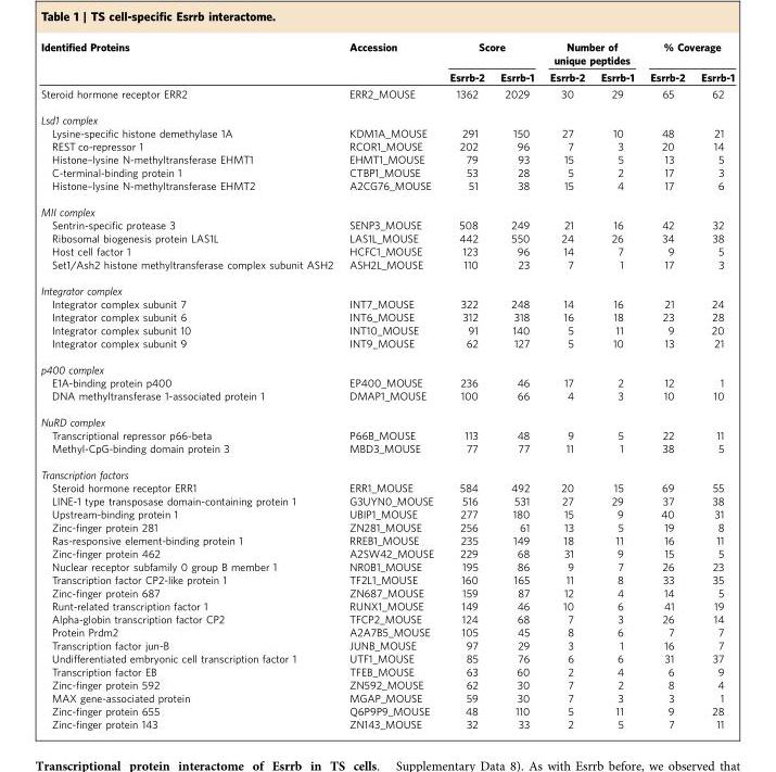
<table><thead><tr><td rowspan="2">Identified Proteins</td><td rowspan="2">Accession</td><td colspan="2">Score</td><td colspan="2">Number of unique peptides</td><td colspan="2">% Coverage</td></tr><tr><td>Esrrb-2</td><td>Esrrb-1</td><td>Esrrb-2</td><td>Esrrb-1</td><td>Esrrb-2</td><td>Esrrb-1</td></tr></thead><tbody><tr><td>Steroid hormone receptor ERR2</td><td>ERR2_MOUSE</td><td>1362</td><td>2029</td><td>30</td><td>29</td><td>65</td><td>62</td></tr><tr><td colspan="8">Lsd1 complex</td></tr><tr><td>Lysine-specific histone demethylase 1A</td><td>KDM1A_MOUSE</td><td>291</td><td>150</td><td>27</td><td>10</td><td>48</td><td>21</td></tr><tr><td>REST co-repressor 1</td><td>RCOR1_MOUSE</td><td>202</td><td>96</td><td>7</td><td>3</td><td>20</td><td>14</td></tr><tr><td>Histone–lysine N-methyltransferase EHMT1</td><td>EHMT1_MOUSE</td><td>79</td><td>93</td><td>15</td><td>5</td><td>13</td><td>5</td></tr><tr><td>C-terminal-binding protein 1</td><td>CTBP1_MOUSE</td><td>53</td><td>28</td><td>5</td><td>2</td><td>17</td><td>3</td></tr><tr><td>Histone–lysine N-methyltransferase EHMT2</td><td>A2CG76_MOUSE</td><td>51</td><td>38</td><td>15</td><td>4</td><td>17</td><td>6</td></tr><tr><td colspan="8">MII complex</td></tr><tr><td>Sentrin-specific protease 3</td><td>SENP3_MOUSE</td><td>508</td><td>249</td><td>21</td><td>16</td><td>42</td><td>32</td></tr><tr><td>Ribosomal biogenesis protein LAS1L</td><td>LAS1L_MOUSE</td><td>442</td><td>550</td><td>24</td><td>26</td><td>34</td><td>38</td></tr><tr><td>Host cell factor 1</td><td>HCFC1_MOUSE</td><td>123</td><td>96</td><td>14</td><td>7</td><td>9</td><td>5</td></tr><tr><td>Set1/Ash2 histone methyltransferase complex subunit ASH2</td><td>ASH2L_MOUSE</td><td>110</td><td>23</td><td>7</td><td>1</td><td>17</td><td>3</td></tr><tr><td colspan="8">Integrator complex</td></tr><tr><td>Integrator complex subunit 7</td><td>INT7_MOUSE</td><td>322</td><td>248</td><td>14</td><td>16</td><td>21</td><td>24</td></tr><tr><td>Integrator complex subunit 6</td><td>INT6_MOUSE</td><td>312</td><td>318</td><td>16</td><td>18</td><td>23</td><td>28</td></tr><tr><td>Integrator complex subunit 10</td><td>INT10_MOUSE</td><td>91</td><td>140</td><td>5</td><td>11</td><td>9</td><td>20</td></tr><tr><td>Integrator complex subunit 9</td><td>INT9_MOUSE</td><td>62</td><td>127</td><td>5</td><td>10</td><td>13</td><td>21</td></tr><tr><td colspan="8">p400 complex</td></tr><tr><td>E1A-binding protein p400</td><td>EP400_MOUSE</td><td>236</td><td>46</td><td>17</td><td>2</td><td>12</td><td>1</td></tr><tr><td>DNA methyltransferase 1-associated protein 1</td><td>DMAP1_MOUSE</td><td>100</td><td>66</td><td>4</td><td>3</td><td>10</td><td>10</td></tr><tr><td colspan="8">NuRD complex</td></tr><tr><td>Transcriptional repressor p66-beta</td><td>P66B_MOUSE</td><td>113</td><td>48</td><td>9</td><td>5</td><td>22</td><td>11</td></tr><tr><td>Methyl-CpG-binding domain protein 3</td><td>MBD3_MOUSE</td><td>77</td><td>77</td><td>11</td><td>1</td><td>38</td><td>5</td></tr><tr><td colspan="8">Transcription factors</td></tr><tr><td>Steroid hormone receptor ERR1</td><td>ERR1_MOUSE</td><td>584</td><td>492</td><td>20</td><td>15</td><td>69</td><td>55</td></tr><tr><td>LINE-1 type transposase domain-containing protein 1</td><td>G3UYN0_MOUSE</td><td>516</td><td>531</td><td>27</td><td>29</td><td>37</td><td>38</td></tr><tr><td>Upstream-binding protein 1</td><td>UBIP1_MOUSE</td><td>277</td><td>180</td><td>15</td><td>9</td><td>40</td><td>31</td></tr><tr><td>Zinc-finger protein 281</td><td>ZN281_MOUSE</td><td>256</td><td>61</td><td>13</td><td>5</td><td>19</td><td>8</td></tr><tr><td>Ras-responsive element-binding protein 1</td><td>RREB1_MOUSE</td><td>235</td><td>149</td><td>18</td><td>11</td><td>16</td><td>11</td></tr><tr><td>Zinc-finger protein 462</td><td>A2SW42_MOUSE</td><td>229</td><td>68</td><td>31</td><td>9</td><td>15</td><td>5</td></tr><tr><td>Nuclear receptor subfamily 0 group B member 1</td><td>NR0B1_MOUSE</td><td>195</td><td>86</td><td>9</td><td>7</td><td>26</td><td>23</td></tr><tr><td>Transcription factor CP2-like protein 1</td><td>TF2L1_MOUSE</td><td>160</td><td>165</td><td>11</td><td>8</td><td>33</td><td>35</td></tr><tr><td>Zinc-finger protein 687</td><td>ZN687_MOUSE</td><td>159</td><td>87</td><td>12</td><td>4</td><td>14</td><td>5</td></tr><tr><td>Runt-related transcription factor 1</td><td>RUNX1_MOUSE</td><td>149</td><td>46</td><td>10</td><td>6</td><td>41</td><td>19</td></tr><tr><td>Alpha-globin transcription factor CP2</td><td>TFCP2_MOUSE</td><td>124</td><td>68</td><td>7</td><td>3</td><td>26</td><td>14</td></tr><tr><td>Protein Prdm2</td><td>A2A7B5_MOUSE</td><td>105</td><td>45</td><td>8</td><td>6</td><td>7</td><td>7</td></tr><tr><td>Transcription factor jun-B</td><td>JUNB_MOUSE</td><td>97</td><td>29</td><td>3</td><td>1</td><td>16</td><td>7</td></tr><tr><td>Undifferentiated embryonic cell transcription factor 1</td><td>UTF1_MOUSE</td><td>85</td><td>76</td><td>6</td><td>6</td><td>31</td><td>37</td></tr><tr><td>Transcription factor EB</td><td>TFEB_MOUSE</td><td>63</td><td>60</td><td>2</td><td>4</td><td>6</td><td>9</td></tr><tr><td>Zinc-finger protein 592</td><td>ZN592_MOUSE</td><td>62</td><td>30</td><td>7</td><td>2</td><td>8</td><td>4</td></tr><tr><td>MAX gene-associated protein</td><td>MGAP_MOUSE</td><td>59</td><td>30</td><td>7</td><td>3</td><td>3</td><td>1</td></tr><tr><td>Zinc-finger protein 655</td><td>Q6P9P9_MOUSE</td><td>48</td><td>110</td><td>5</td><td>11</td><td>9</td><td>28</td></tr><tr><td>Zinc-finger protein 143</td><td>ZN143_MOUSE</td><td>32</td><td>33</td><td>2</td><td>5</td><td>7</td><td>11</td></tr></tbody></table>